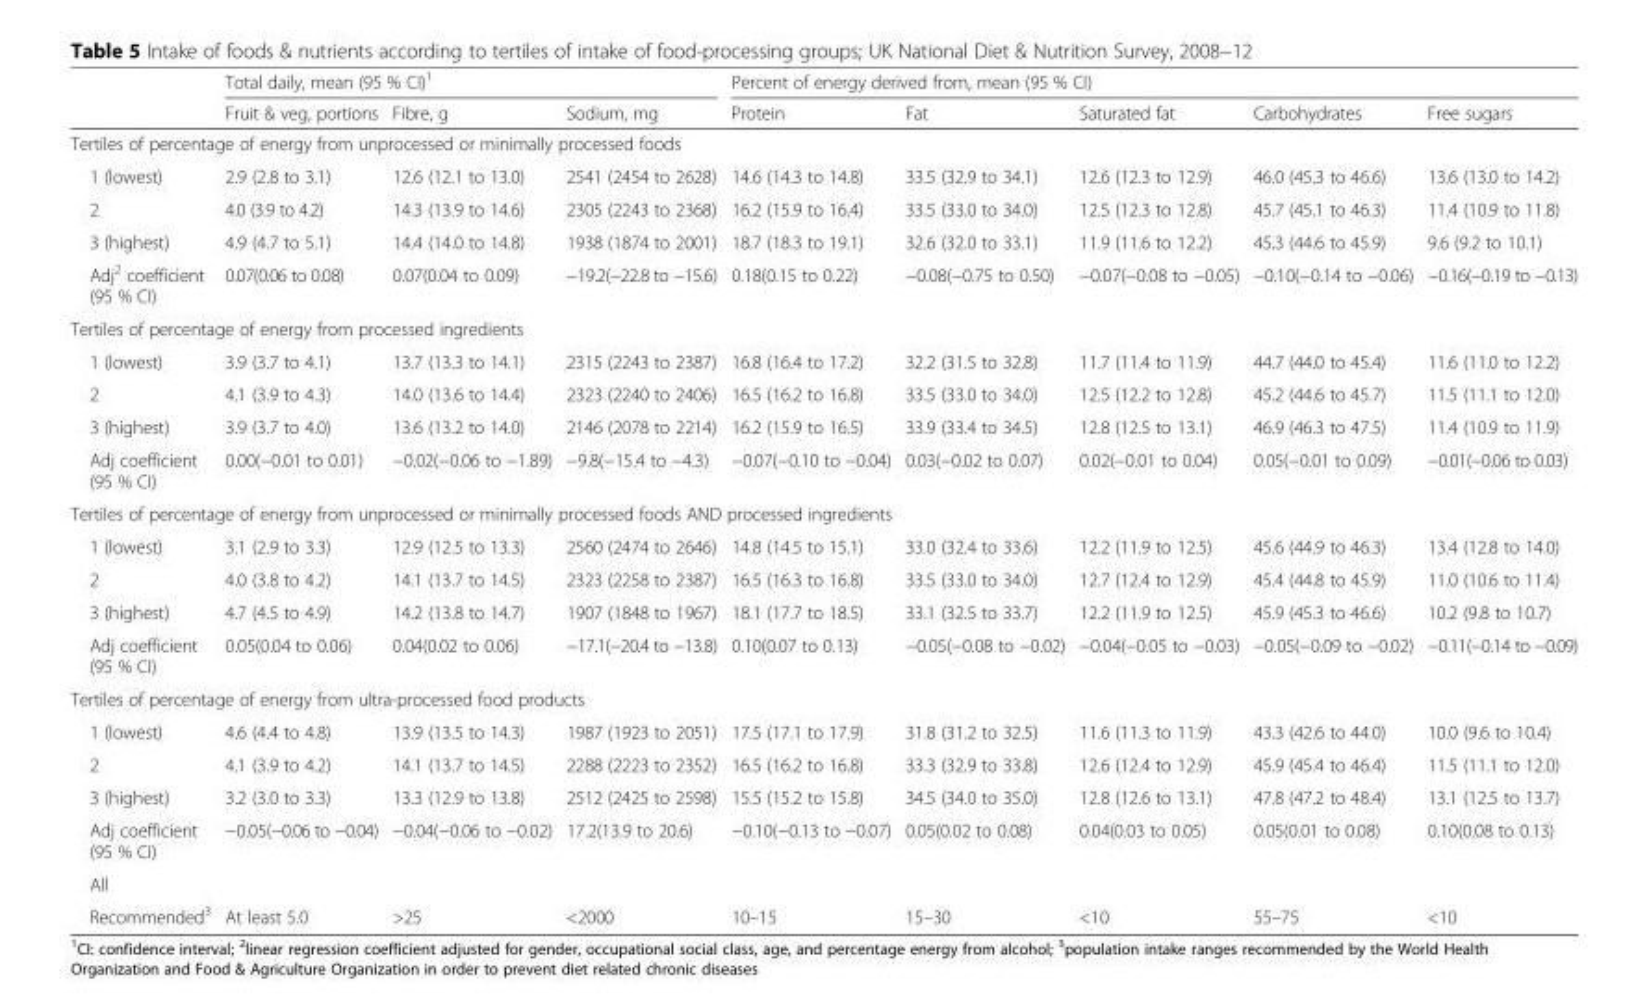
<table><thead><tr><td rowspan="2"></td><td colspan="3">Total daily, mean (95 % CI)<sup>1</sup></td><td colspan="5">Percent of energy derived from, mean (95 % CI)</td></tr><tr><td>Fruit &amp; veg, portions</td><td>Fibre, g</td><td>Sodium, mg</td><td>Protein</td><td>Fat</td><td>Saturated fat</td><td>Carbohydrates</td><td>Free sugars</td></tr></thead><tbody><tr><td colspan="9">Tertiles of percentage of energy from unprocessed or minimally processed foods</td></tr><tr><td>1 (lowest)</td><td>2.9 (2.8 to 3.1)</td><td>12.6 (12.1 to 13.0)</td><td>2541 (2454 to 2628)</td><td>14.6 (14.3 to 14.8)</td><td>33.5 (32.9 to 34.1)</td><td>12.6 (12.3 to 12.9)</td><td>46.0 (45.3 to 46.6)</td><td>13.6 (13.0 to 14.2)</td></tr><tr><td>2</td><td>4.0 (3.9 to 4.2)</td><td>14.3 (13.9 to 14.6)</td><td>2305 (2243 to 2368)</td><td>16.2 (15.9 to 16.4)</td><td>33.5 (33.0 to 34.0)</td><td>12.5 (12.3 to 12.8)</td><td>45.7 (45.1 to 46.3)</td><td>11.4 (10.9 to 11.8)</td></tr><tr><td>3 (highest)</td><td>4.9 (4.7 to 5.1)</td><td>14.4 (14.0 to 14.8)</td><td>1938 (1874 to 2001)</td><td>18.7 (18.3 to 19.1)</td><td>32.6 (32.0 to 33.1)</td><td>11.9 (11.6 to 12.2)</td><td>45.3 (44.6 to 45.9)</td><td>9.6 (9.2 to 10.1)</td></tr><tr><td>Adj<sup>2</sup> coefficient (95 % CI)</td><td>0.07(0.06 to 0.08)</td><td>0.07(0.04 to 0.09)</td><td>−19.2(−22.8 to −15.6)</td><td>0.18(0.15 to 0.22)</td><td>−0.08(−0.75 to 0.50)</td><td>−0.07(−0.08 to −0.05)</td><td>−0.10(−0.14 to −0.06)</td><td>−0.16(−0.19 to −0.13)</td></tr><tr><td colspan="9">Tertiles of percentage of energy from processed ingredients</td></tr><tr><td>1 (lowest)</td><td>3.9 (3.7 to 4.1)</td><td>13.7 (13.3 to 14.1)</td><td>2315 (2243 to 2387)</td><td>16.8 (16.4 to 17.2)</td><td>32.2 (31.5 to 32.8)</td><td>11.7 (11.4 to 11.9)</td><td>44.7 (44.0 to 45.4)</td><td>11.6 (11.0 to 12.2)</td></tr><tr><td>2</td><td>4.1 (3.9 to 4.3)</td><td>14.0 (13.6 to 14.4)</td><td>2323 (2240 to 2406)</td><td>16.5 (16.2 to 16.8)</td><td>33.5 (33.0 to 34.0)</td><td>12.5 (12.2 to 12.8)</td><td>45.2 (44.6 to 45.7)</td><td>11.5 (11.1 to 12.0)</td></tr><tr><td>3 (highest)</td><td>3.9 (3.7 to 4.0)</td><td>13.6 (13.2 to 14.0)</td><td>2146 (2078 to 2214)</td><td>16.2 (15.9 to 16.5)</td><td>33.9 (33.4 to 34.5)</td><td>12.8 (12.5 to 13.1)</td><td>46.9 (46.3 to 47.5)</td><td>11.4 (10.9 to 11.9)</td></tr><tr><td>Adj coefficient (95 % CI)</td><td>0.00(−0.01 to 0.01)</td><td>−0.02(−0.06 to −1.89)</td><td>−9.8(−15.4 to −4.3)</td><td>−0.07(−0.10 to −0.04)</td><td>0.03(−0.02 to 0.07)</td><td>0.02(−0.01 to 0.04)</td><td>0.05(−0.01 to 0.09)</td><td>−0.01(−0.06 to 0.03)</td></tr><tr><td colspan="9">Tertiles of percentage of energy from unprocessed or minimally processed foods AND processed ingredients</td></tr><tr><td>1 (lowest)</td><td>3.1 (2.9 to 3.3)</td><td>12.9 (12.5 to 13.3)</td><td>2560 (2474 to 2646)</td><td>14.8 (14.5 to 15.1)</td><td>33.0 (32.4 to 33.6)</td><td>12.2 (11.9 to 12.5)</td><td>45.6 (44.9 to 46.3)</td><td>13.4 (12.8 to 14.0)</td></tr><tr><td>2</td><td>4.0 (3.8 to 4.2)</td><td>14.1 (13.7 to 14.5)</td><td>2323 (2258 to 2387)</td><td>16.5 (16.3 to 16.8)</td><td>33.5 (33.0 to 34.0)</td><td>12.7 (12.4 to 12.9)</td><td>45.4 (44.8 to 45.9)</td><td>11.0 (10.6 to 11.4)</td></tr><tr><td>3 (highest)</td><td>4.7 (4.5 to 4.9)</td><td>14.2 (13.8 to 14.7)</td><td>1907 (1848 to 1967)</td><td>18.1 (17.7 to 18.5)</td><td>33.1 (32.5 to 33.7)</td><td>12.2 (11.9 to 12.5)</td><td>45.9 (45.3 to 46.6)</td><td>10.2 (9.8 to 10.7)</td></tr><tr><td>Adj coefficient (95 % CI)</td><td>0.05(0.04 to 0.06)</td><td>0.04(0.02 to 0.06)</td><td>−17.1(−20.4 to −13.8)</td><td>0.10(0.07 to 0.13)</td><td>−0.05(−0.08 to −0.02)</td><td>−0.04(−0.05 to −0.03)</td><td>−0.05(−0.09 to −0.02)</td><td>−0.11(−0.14 to −0.09)</td></tr><tr><td colspan="9">Tertiles of percentage of energy from ultra-processed food products</td></tr><tr><td>1 (lowest)</td><td>4.6 (4.4 to 4.8)</td><td>13.9 (13.5 to 14.3)</td><td>1987 (1923 to 2051)</td><td>17.5 (17.1 to 17.9)</td><td>31.8 (31.2 to 32.5)</td><td>11.6 (11.3 to 11.9)</td><td>43.3 (42.6 to 44.0)</td><td>10.0 (9.6 to 10.4)</td></tr><tr><td>2</td><td>4.1 (3.9 to 4.2)</td><td>14.1 (13.7 to 14.5)</td><td>2288 (2223 to 2352)</td><td>16.5 (16.2 to 16.8)</td><td>33.3 (32.9 to 33.8)</td><td>12.6 (12.4 to 12.9)</td><td>45.9 (45.4 to 46.4)</td><td>11.5 (11.1 to 12.0)</td></tr><tr><td>3 (highest)</td><td>3.2 (3.0 to 3.3)</td><td>13.3 (12.9 to 13.8)</td><td>2512 (2425 to 2598)</td><td>15.5 (15.2 to 15.8)</td><td>34.5 (34.0 to 35.0)</td><td>12.8 (12.6 to 13.1)</td><td>47.8 (47.2 to 48.4)</td><td>13.1 (12.5 to 13.7)</td></tr><tr><td>Adj coefficient (95 % CI)</td><td>−0.05(−0.06 to −0.04)</td><td>−0.04(−0.06 to −0.02)</td><td>17.2(13.9 to 20.6)</td><td>−0.10(−0.13 to −0.07)</td><td>0.05(0.02 to 0.08)</td><td>0.04(0.03 to 0.05)</td><td>0.05(0.01 to 0.08)</td><td>0.10(0.08 to 0.13)</td></tr><tr><td colspan="9">All</td></tr><tr><td>Recommended<sup>3</sup></td><td>At least 5.0</td><td>&gt;25</td><td>&lt;2000</td><td>10–15</td><td>15–30</td><td>&lt;10</td><td>55–75</td><td>&lt;10</td></tr></tbody></table>